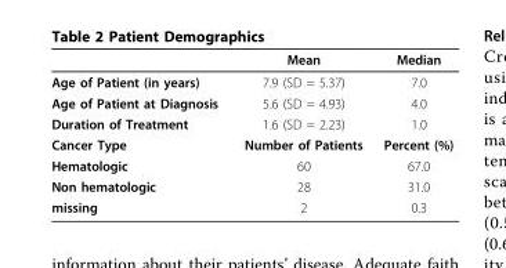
<table><thead><tr><td></td><td>Mean</td><td>Median</td></tr></thead><tbody><tr><td>Age of Patient (in years)</td><td>7.9 (SD = 5.37)</td><td>7.0</td></tr><tr><td>Age of Patient at Diagnosis</td><td>5.6 (SD = 4.93)</td><td>4.0</td></tr><tr><td>Duration of Treatment</td><td>1.6 (SD = 2.23)</td><td>1.0</td></tr><tr><td>Cancer Type</td><td>Number of Patients</td><td>Percent (%)</td></tr><tr><td>Hematologic</td><td>60</td><td>67.0</td></tr><tr><td>Non hematologic</td><td>28</td><td>31.0</td></tr><tr><td>missing</td><td>2</td><td>0.3</td></tr></tbody></table>